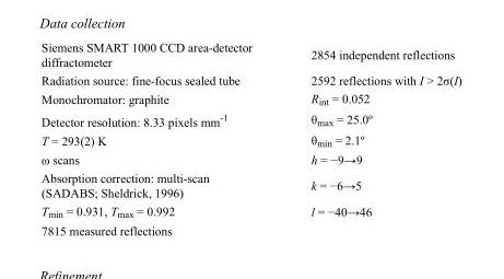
<table><tbody><tr><td>Siemens SMART 1000 CCD area-detector diffractometer</td><td>2854 independent reflections</td></tr><tr><td>Radiation source: fine-focus sealed tube</td><td>2592 reflections with I &gt; 2σ(I)</td></tr><tr><td>Monochromator: graphite</td><td>R<sub>int</sub> = 0.052</td></tr><tr><td>Detector resolution: 8.33 pixels mm<sup>-1</sup></td><td>θ<sub>max</sub> = 25.0º</td></tr><tr><td>T = 293(2) K</td><td>θ<sub>min</sub> = 2.1º</td></tr><tr><td>ω scans</td><td>h = −9→9</td></tr><tr><td>Absorption correction: multi-scan (SADABS; Sheldrick, 1996)</td><td>k = −6→5</td></tr><tr><td>T<sub>min</sub> = 0.931, T<sub>max</sub> = 0.992</td><td>l = −40→46</td></tr><tr><td>7815 measured reflections</td><td></td></tr></tbody></table>